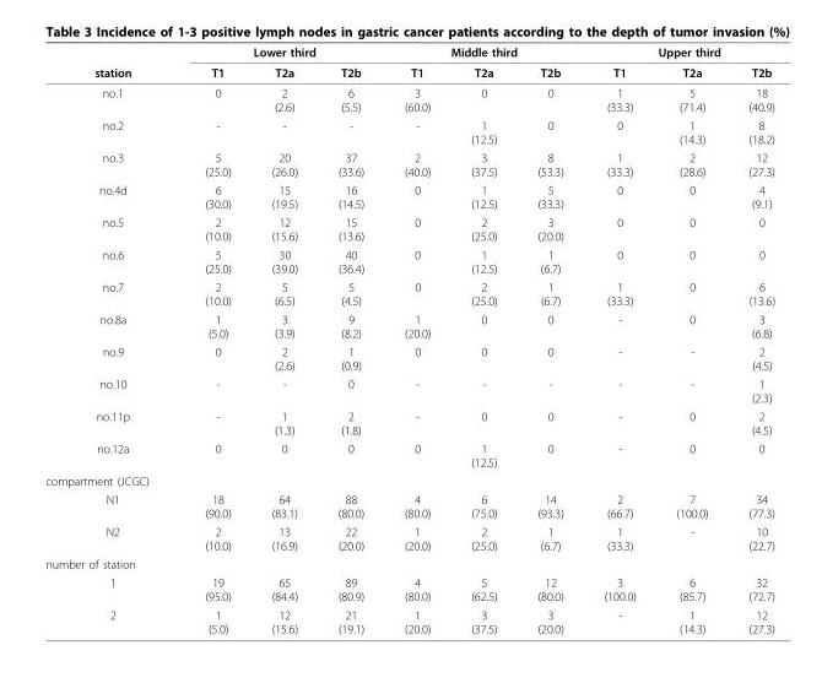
<table><thead><tr><td rowspan="2">station</td><td colspan="3">Lower third</td><td colspan="3">Middle third</td><td colspan="3">Upper third</td></tr><tr><td>T1</td><td>T2a</td><td>T2b</td><td>T1</td><td>T2a</td><td>T2b</td><td>T1</td><td>T2a</td><td>T2b</td></tr></thead><tbody><tr><td>no.1</td><td>0</td><td>2 (2.6)</td><td>6 (5.5)</td><td>3 (60.0)</td><td>0</td><td>0</td><td>1 (33.3)</td><td>5 (71.4)</td><td>18 (40.9)</td></tr><tr><td>no.2</td><td>-</td><td>-</td><td>-</td><td>-</td><td>1 (12.5)</td><td>0</td><td>0</td><td>1 (14.3)</td><td>8 (18.2)</td></tr><tr><td>no.3</td><td>5 (25.0)</td><td>20 (26.0)</td><td>37 (33.6)</td><td>2 (40.0)</td><td>3 (37.5)</td><td>8 (53.3)</td><td>1 (33.3)</td><td>2 (28.6)</td><td>12 (27.3)</td></tr><tr><td>no.4d</td><td>6 (30.0)</td><td>15 (19.5)</td><td>16 (14.5)</td><td>0</td><td>1 (12.5)</td><td>5 (33.3)</td><td>0</td><td>0</td><td>4 (9.1)</td></tr><tr><td>no.5</td><td>2 (10.0)</td><td>12 (15.6)</td><td>15 (13.6)</td><td>0</td><td>2 (25.0)</td><td>3 (20.0)</td><td>0</td><td>0</td><td>0</td></tr><tr><td>no.6</td><td>5 (25.0)</td><td>30 (39.0)</td><td>40 (36.4)</td><td>0</td><td>1 (12.5)</td><td>1 (6.7)</td><td>0</td><td>0</td><td>0</td></tr><tr><td>no.7</td><td>2 (10.0)</td><td>5 (6.5)</td><td>5 (4.5)</td><td>0</td><td>2 (25.0)</td><td>1 (6.7)</td><td>1 (33.3)</td><td>0</td><td>6 (13.6)</td></tr><tr><td>no.8a</td><td>1 (5.0)</td><td>3 (3.9)</td><td>9 (8.2)</td><td>1 (20.0)</td><td>0</td><td>0</td><td>-</td><td>0</td><td>3 (6.8)</td></tr><tr><td>no.9</td><td>0</td><td>2 (2.6)</td><td>1 (0.9)</td><td>0</td><td>0</td><td>0</td><td>-</td><td>-</td><td>2 (4.5)</td></tr><tr><td>no.10</td><td>-</td><td>-</td><td>0</td><td>-</td><td>-</td><td>-</td><td>-</td><td>-</td><td>1 (2.3)</td></tr><tr><td>no.11p</td><td>-</td><td>1 (1.3)</td><td>2 (1.8)</td><td>-</td><td>0</td><td>0</td><td>-</td><td>0</td><td>2 (4.5)</td></tr><tr><td>no.12a</td><td>0</td><td>0</td><td>0</td><td>0</td><td>1 (12.5)</td><td>0</td><td>-</td><td>0</td><td>0</td></tr><tr><td colspan="10">compartment (JCGC)</td></tr><tr><td>N1</td><td>18 (90.0)</td><td>64 (83.1)</td><td>88 (80.0)</td><td>4 (80.0)</td><td>6 (75.0)</td><td>14 (93.3)</td><td>2 (66.7)</td><td>7 (100.0)</td><td>34 (77.3)</td></tr><tr><td>N2</td><td>2 (10.0)</td><td>13 (16.9)</td><td>22 (20.0)</td><td>1 (20.0)</td><td>2 (25.0)</td><td>1 (6.7)</td><td>1 (33.3)</td><td>-</td><td>10 (22.7)</td></tr><tr><td colspan="10">number of station</td></tr><tr><td>1</td><td>19 (95.0)</td><td>65 (84.4)</td><td>89 (80.9)</td><td>4 (80.0)</td><td>5 (62.5)</td><td>12 (80.0)</td><td>3 (100.0)</td><td>6 (85.7)</td><td>32 (72.7)</td></tr><tr><td>2</td><td>1 (5.0)</td><td>12 (15.6)</td><td>21 (19.1)</td><td>1 (20.0)</td><td>3 (37.5)</td><td>3 (20.0)</td><td>-</td><td>1 (14.3)</td><td>12 (27.3)</td></tr></tbody></table>